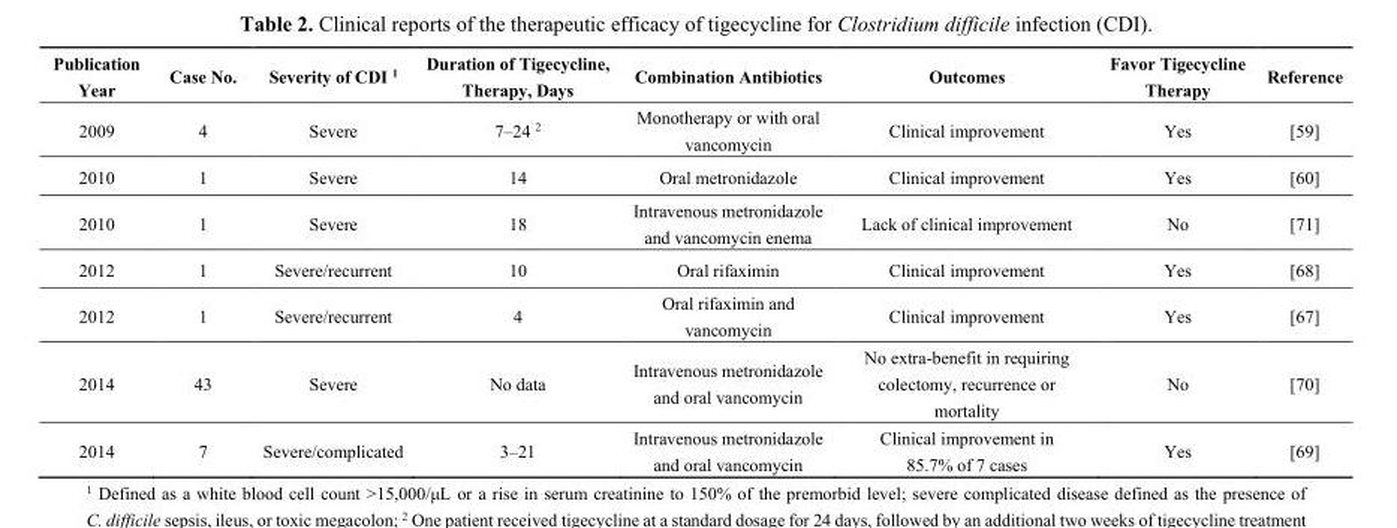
<table><thead><tr><td>Publication Year</td><td>Case No.</td><td>Severity of CDI <sup>1</sup></td><td>Duration of Tigecycline, Therapy, Days</td><td>Combination Antibiotics</td><td>Outcomes</td><td>Favor Tigecycline Therapy</td><td>Reference</td></tr></thead><tbody><tr><td>2009</td><td>4</td><td>Severe</td><td>7–24 <sup>2</sup></td><td>Monotherapy or with oral vancomycin</td><td>Clinical improvement</td><td>Yes</td><td>[59]</td></tr><tr><td>2010</td><td>1</td><td>Severe</td><td>14</td><td>Oral metronidazole</td><td>Clinical improvement</td><td>Yes</td><td>[60]</td></tr><tr><td>2010</td><td>1</td><td>Severe</td><td>18</td><td>Intravenous metronidazole and vancomycin enema</td><td>Lack of clinical improvement</td><td>No</td><td>[71]</td></tr><tr><td>2012</td><td>1</td><td>Severe/recurrent</td><td>10</td><td>Oral rifaximin</td><td>Clinical improvement</td><td>Yes</td><td>[68]</td></tr><tr><td>2012</td><td>1</td><td>Severe/recurrent</td><td>4</td><td>Oral rifaximin and vancomycin</td><td>Clinical improvement</td><td>Yes</td><td>[67]</td></tr><tr><td>2014</td><td>43</td><td>Severe</td><td>No data</td><td>Intravenous metronidazole and oral vancomycin</td><td>No extra-benefit in requiring colectomy, recurrence or mortality</td><td>No</td><td>[70]</td></tr><tr><td>2014</td><td>7</td><td>Severe/complicated</td><td>3–21</td><td>Intravenous metronidazole and oral vancomycin</td><td>Clinical improvement in 85.7% of 7 cases</td><td>Yes</td><td>[69]</td></tr></tbody></table>